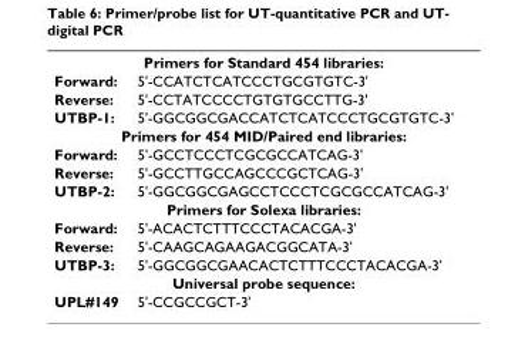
<table><tbody><tr><td colspan="2">Primers for Standard 454 libraries:</td></tr><tr><td>Forward:</td><td>5&#x27;-CCATCTCATCCCTGCGTGTC-3&#x27;</td></tr><tr><td>Reverse:</td><td>5&#x27;-CCTATCCCCTGTGTGCCTTG-3&#x27;</td></tr><tr><td>UTBP-1:</td><td>5&#x27;-GGCGGCGACCATCTCATCCCTGCGTGTC-3&#x27;</td></tr><tr><td colspan="2">Primers for 454 MID/Paired end libraries:</td></tr><tr><td>Forward:</td><td>5&#x27;-GCCTCCCTCGCGCCATCAG-3&#x27;</td></tr><tr><td>Reverse:</td><td>5&#x27;-GCCTTGCCAGCCCGCTCAG-3&#x27;</td></tr><tr><td>UTBP-2:</td><td>5&#x27;-GGCGGCGAGCCTCCCTCGCGCCATCAG-3&#x27;</td></tr><tr><td colspan="2">Primers for Solexa libraries:</td></tr><tr><td>Forward:</td><td>5&#x27;-ACACTCTTTCCCTACACGA-3&#x27;</td></tr><tr><td>Reverse:</td><td>5&#x27;-CAAGCAGAAGACGGCATA-3&#x27;</td></tr><tr><td>UTBP-3:</td><td>5&#x27;-GGCGGCGAACACTCTTTCCCTACACGA-3&#x27;</td></tr><tr><td colspan="2">Universal probe sequence:</td></tr><tr><td>UPL#149</td><td>5&#x27;-CCGCCGCT-3&#x27;</td></tr></tbody></table>